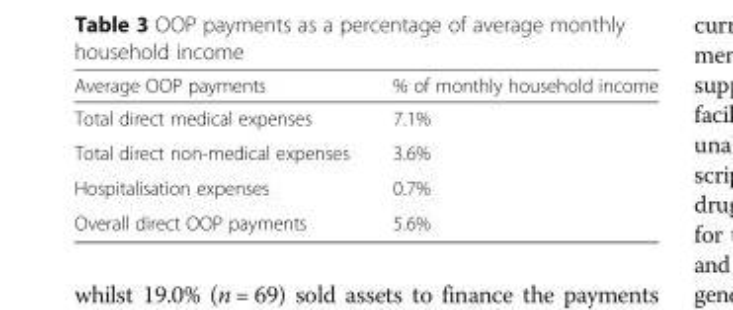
<table><thead><tr><td>Average OOP payments</td><td>% of monthly household income</td></tr></thead><tbody><tr><td>Total direct medical expenses</td><td>7.1%</td></tr><tr><td>Total direct non-medical expenses</td><td>3.6%</td></tr><tr><td>Hospitalisation expenses</td><td>0.7%</td></tr><tr><td>Overall direct OOP payments</td><td>5.6%</td></tr></tbody></table>